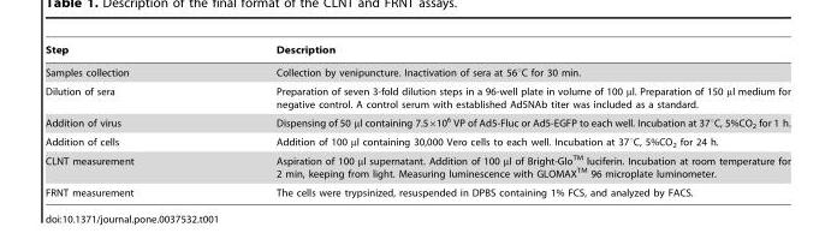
<table><thead><tr><td>Step</td><td>Description</td></tr></thead><tbody><tr><td>Samples collection</td><td>Collection by venipuncture. Inactivation of sera at 56°C for 30 min.</td></tr><tr><td>Dilution of sera</td><td>Preparation of seven 3-fold dilution steps in a 96-well plate in volume of 100 µl. Preparation of 150 µl medium for negative control. A control serum with established Ad5NAb titer was included as a standard.</td></tr><tr><td>Addition of virus</td><td>Dispensing of 50 µl containing 7.5×10<sup>6</sup> VP of Ad5-Fluc or Ad5-EGFP to each well. Incubation at 37°C, 5%CO<sub>2</sub> for 1 h.</td></tr><tr><td>Addition of cells</td><td>Addition of 100 µl containing 30,000 Vero cells to each well. Incubation at 37°C, 5%CO<sub>2</sub> for 24 h.</td></tr><tr><td>CLNT measurement</td><td>Aspiration of 100 ml supernatant. Addition of 100 ml of Bright-GloTM luciferin. Incubation at room temperature for 2 min, keeping from light. Measuring luminescence with GLOMAXTM 96 microplate luminometer.</td></tr><tr><td>FRNT measurement</td><td>The cells were trypsinized, resuspended in DPBS containing 1% FCS, and analyzed by FACS.</td></tr></tbody></table>